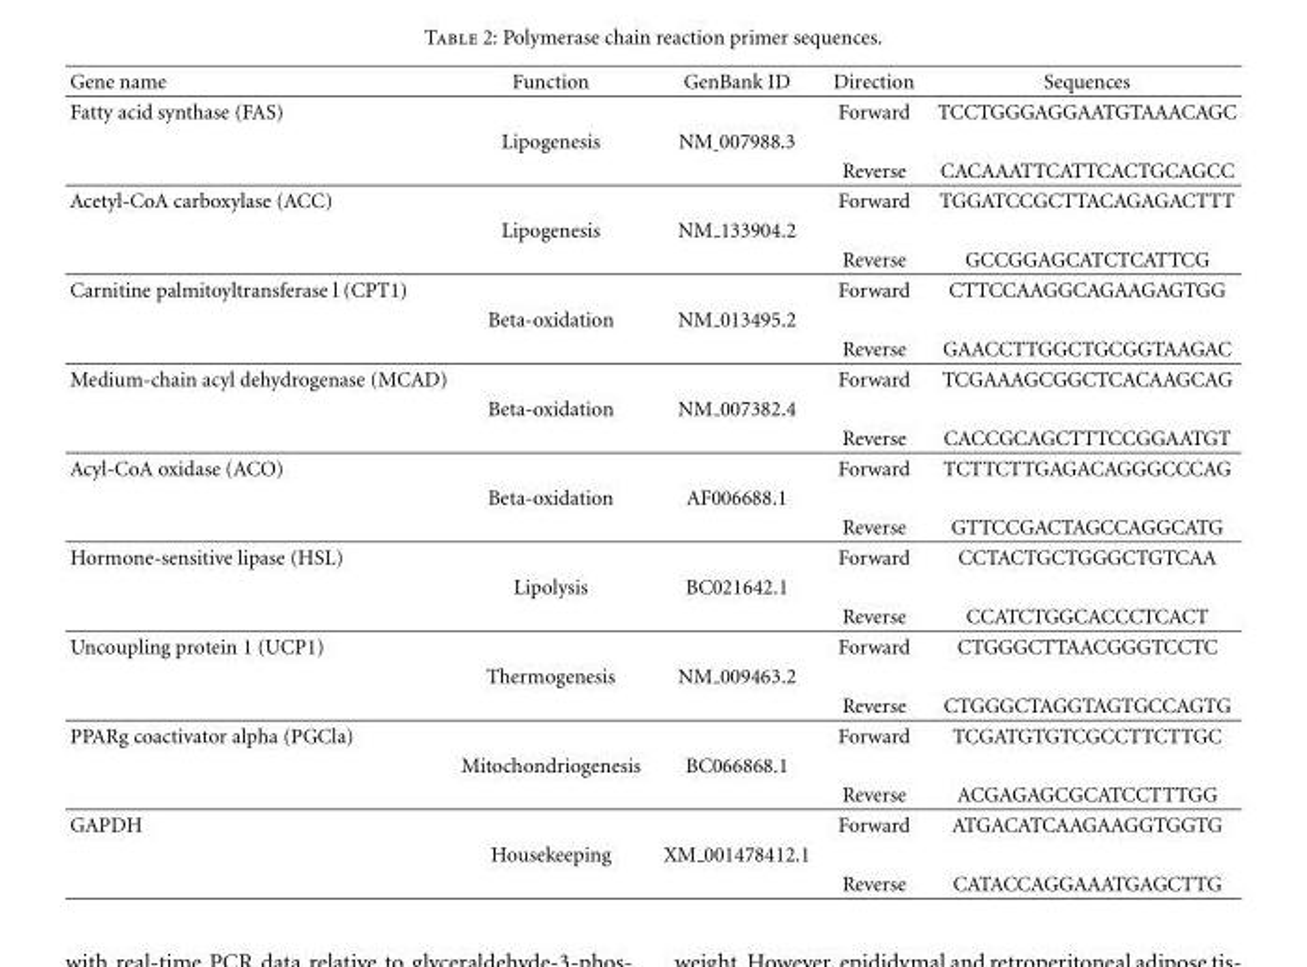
<table><thead><tr><td>Gene name</td><td>Function</td><td>GenBank ID</td><td>Direction</td><td>Sequences</td></tr></thead><tbody><tr><td rowspan="3">Fatty acid synthase (FAS)</td><td></td><td></td><td>Forward</td><td>TCCTGGGAGGAATGTAAACAGC</td></tr><tr><td>Lipogenesis</td><td>NM 007988.3</td><td></td><td></td></tr><tr><td></td><td></td><td>Reverse</td><td>CACAAATTCATTCACTGCAGCC</td></tr><tr><td rowspan="3">Acetyl-CoA carboxylase (ACC)</td><td></td><td></td><td>Forward</td><td>TGGATCCGCTTACAGAGACTTT</td></tr><tr><td>Lipogenesis</td><td>NM 133904.2</td><td></td><td></td></tr><tr><td></td><td></td><td>Reverse</td><td>GCCGGAGCATCTCATTCG</td></tr><tr><td rowspan="3">Carnitine palmitoyltransferase l (CPT1)</td><td></td><td></td><td>Forward</td><td>CTTCCAAGGCAGAAGAGTGG</td></tr><tr><td>Beta-oxidation</td><td>NM 013495.2</td><td></td><td></td></tr><tr><td></td><td></td><td>Reverse</td><td>GAACCTTGGCTGCGGTAAGAC</td></tr><tr><td rowspan="3">Medium-chain acyl dehydrogenase (MCAD)</td><td></td><td></td><td>Forward</td><td>TCGAAAGCGGCTCACAAGCAG</td></tr><tr><td>Beta-oxidation</td><td>NM 007382.4</td><td></td><td></td></tr><tr><td></td><td></td><td>Reverse</td><td>CACCGCAGCTTTCCGGAATGT</td></tr><tr><td rowspan="3">Acyl-CoA oxidase (ACO)</td><td></td><td></td><td>Forward</td><td>TCTTCTTGAGACAGGGCCCAG</td></tr><tr><td>Beta-oxidation</td><td>AF006688.1</td><td></td><td></td></tr><tr><td></td><td></td><td>Reverse</td><td>GTTCCGACTAGCCAGGCATG</td></tr><tr><td rowspan="3">Hormone-sensitive lipase (HSL)</td><td></td><td></td><td>Forward</td><td>CCTACTGCTGGGCTGTCAA</td></tr><tr><td>Lipolysis</td><td>BC021642.1</td><td></td><td></td></tr><tr><td></td><td></td><td>Reverse</td><td>CCATCTGGCACCCTCACT</td></tr><tr><td rowspan="3">Uncoupling protein 1 (UCP1)</td><td></td><td></td><td>Forward</td><td>CTGGGCTTAACGGGTCCTC</td></tr><tr><td>Thermogenesis</td><td>NM 009463.2</td><td></td><td></td></tr><tr><td></td><td></td><td>Reverse</td><td>CTGGGCTAGGTAGTGCCAGTG</td></tr><tr><td rowspan="3">PPARg coactivator alpha (PGCla)</td><td></td><td></td><td>Forward</td><td>TCGATGTGTCGCCTTCTTGC</td></tr><tr><td>Mitochondriogenesis</td><td>BC066868.1</td><td></td><td></td></tr><tr><td></td><td></td><td>Reverse</td><td>ACGAGAGCGCATCCTTTGG</td></tr><tr><td rowspan="3">GAPDH</td><td></td><td></td><td>Forward</td><td>ATGACATCAAGAAGGTGGTG</td></tr><tr><td>Housekeeping</td><td>XM 001478412.1</td><td></td><td></td></tr><tr><td></td><td></td><td>Reverse</td><td>CATACCAGGAAATGAGCTTG</td></tr></tbody></table>